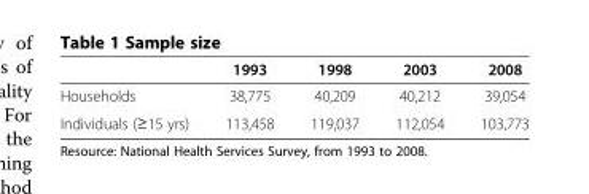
<table><thead><tr><td></td><td>1993</td><td>1998</td><td>2003</td><td>2008</td></tr></thead><tbody><tr><td>Households</td><td>38,775</td><td>40,209</td><td>40,212</td><td>39,054</td></tr><tr><td>Individuals (≥15 yrs)</td><td>113,458</td><td>119,037</td><td>112,054</td><td>103,773</td></tr></tbody></table>